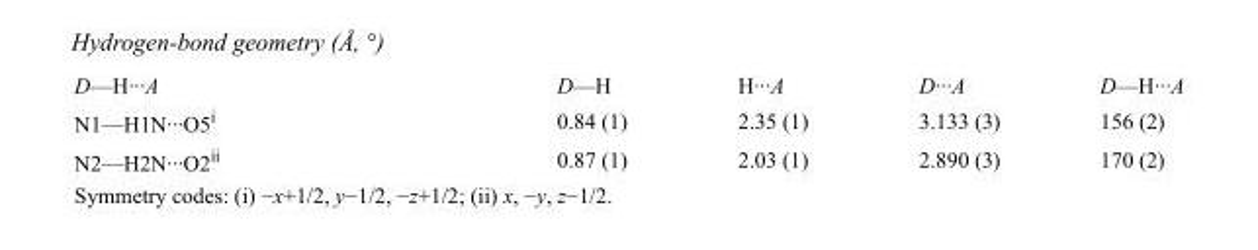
<table><tbody><tr><td>D—H···A</td><td>D—H</td><td>H···A</td><td>D···A</td><td>D—H···A</td></tr><tr><td>N1—H1N···O5<sup>i</sup></td><td>0.84 (1)</td><td>2.35 (1)</td><td>3.133 (3)</td><td>156 (2)</td></tr><tr><td>N2—H2N···O2<sup>ii</sup></td><td>0.87 (1)</td><td>2.03 (1)</td><td>2.890 (3)</td><td>170 (2)</td></tr></tbody></table>